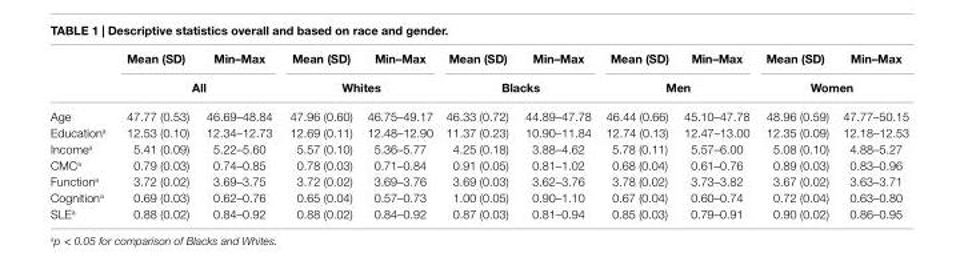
<table><thead><tr><td rowspan="2"></td><td>Mean (sD)</td><td>Min–Max</td><td>Mean (sD)</td><td>Min–Max</td><td>Mean (sD)</td><td>Min–Max</td><td>Mean (sD)</td><td>Min–Max</td><td>Mean (sD)</td><td>Min–Max</td></tr><tr><td colspan="2">all</td><td colspan="2">Whites</td><td colspan="2">Blacks</td><td colspan="2">Men</td><td colspan="2">Women</td></tr></thead><tbody><tr><td>Age</td><td>47.77 (0.53)</td><td>46.69–48.84</td><td>47.96 (0.60)</td><td>46.75–49.17</td><td>46.33 (0.72)</td><td>44.89–47.78</td><td>46.44 (0.66)</td><td>45.10–47.78</td><td>48.96 (0.59)</td><td>47.77–50.15</td></tr><tr><td>Education<sup>a</sup></td><td>12.53 (0.10)</td><td>12.34–12.73</td><td>12.69 (0.11)</td><td>12.48–12.90</td><td>11.37 (0.23)</td><td>10.90–11.84</td><td>12.74 (0.13)</td><td>12.47–13.00</td><td>12.35 (0.09)</td><td>12.18–12.53</td></tr><tr><td>Income<sup>a</sup></td><td>5.41 (0.09)</td><td>5.22–5.60</td><td>5.57 (0.10)</td><td>5.36–5.77</td><td>4.25 (0.18)</td><td>3.88–4.62</td><td>5.78 (0.11)</td><td>5.57–6.00</td><td>5.08 (0.10)</td><td>4.88–5.27</td></tr><tr><td>CMC<sup>a</sup></td><td>0.79 (0.03)</td><td>0.74–0.85</td><td>0.78 (0.03)</td><td>0.71–0.84</td><td>0.91 (0.05)</td><td>0.81–1.02</td><td>0.68 (0.04)</td><td>0.61–0.76</td><td>0.89 (0.03)</td><td>0.83–0.96</td></tr><tr><td>Function<sup>a</sup></td><td>3.72 (0.02)</td><td>3.69–3.75</td><td>3.72 (0.02)</td><td>3.69–3.76</td><td>3.69 (0.03)</td><td>3.62–3.76</td><td>3.78 (0.02)</td><td>3.73–3.82</td><td>3.67 (0.02)</td><td>3.63–3.71</td></tr><tr><td>Cognition<sup>a</sup></td><td>0.69 (0.03)</td><td>0.62–0.76</td><td>0.65 (0.04)</td><td>0.57–0.73</td><td>1.00 (0.05)</td><td>0.90–1.10</td><td>0.67 (0.04)</td><td>0.60–0.74</td><td>0.72 (0.04)</td><td>0.63–0.80</td></tr><tr><td>SLE<sup>a</sup></td><td>0.88 (0.02)</td><td>0.84–0.92</td><td>0.88 (0.02)</td><td>0.84–0.92</td><td>0.87 (0.03)</td><td>0.81–0.94</td><td>0.85 (0.03)</td><td>0.79–0.91</td><td>0.90 (0.02)</td><td>0.86–0.95</td></tr></tbody></table>